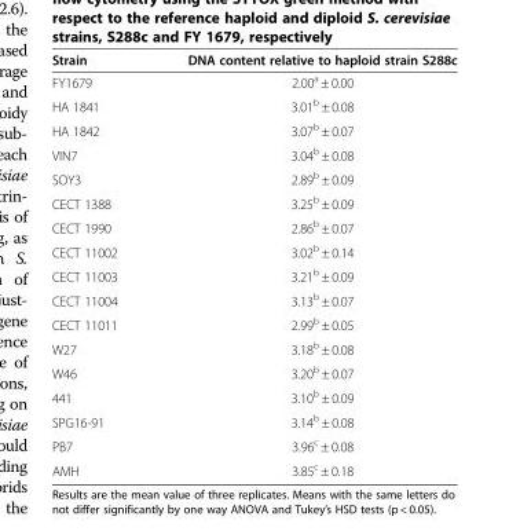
<table><thead><tr><td>Strain</td><td>DNA content relative to haploid strain S288c</td></tr></thead><tbody><tr><td>FY1679</td><td>2.00<sup>a</sup> ± 0.00</td></tr><tr><td>HA 1841</td><td>3.01<sup>b</sup> ± 0.08</td></tr><tr><td>HA 1842</td><td>3.07<sup>b</sup> ± 0.07</td></tr><tr><td>VIN7</td><td>3.04<sup>b</sup> ± 0.08</td></tr><tr><td>SOY3</td><td>2.89<sup>b</sup> ± 0.09</td></tr><tr><td>CECT 1388</td><td>3.25<sup>b</sup> ± 0.09</td></tr><tr><td>CECT 1990</td><td>2.86<sup>b</sup> ± 0.07</td></tr><tr><td>CECT 11002</td><td>3.02<sup>b</sup> ± 0.14</td></tr><tr><td>CECT 11003</td><td>3.21<sup>b</sup> ± 0.09</td></tr><tr><td>CECT 11004</td><td>3.13<sup>b</sup> ± 0.07</td></tr><tr><td>CECT 11011</td><td>2.99<sup>b</sup> ± 0.05</td></tr><tr><td>W27</td><td>3.18<sup>b</sup> ± 0.08</td></tr><tr><td>W46</td><td>3.20<sup>b</sup> ± 0.07</td></tr><tr><td>441</td><td>3.10<sup>b</sup> ± 0.09</td></tr><tr><td>SPG16-91</td><td>3.14<sup>b</sup> ± 0.08</td></tr><tr><td>PB7</td><td>3.96<sup>c</sup> ± 0.08</td></tr><tr><td>AMH</td><td>3.85<sup>c</sup> ± 0.18</td></tr></tbody></table>